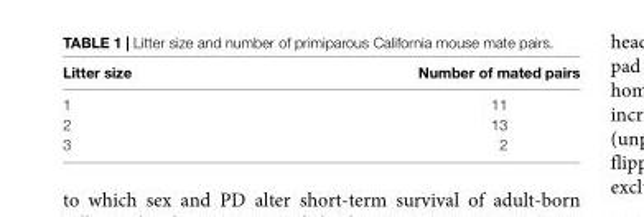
<table><thead><tr><td>Litter size</td><td>Number of mated pairs</td></tr></thead><tbody><tr><td>1</td><td>11</td></tr><tr><td>2</td><td>13</td></tr><tr><td>3</td><td>2</td></tr></tbody></table>